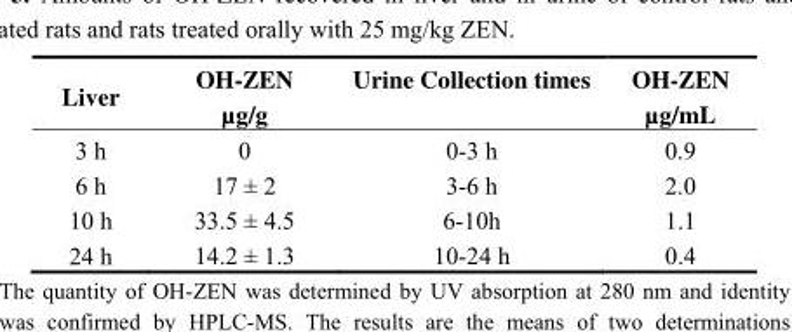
<table><thead><tr><td>Liver</td><td>OH-ZEN µg/g</td><td>Urine Collection times</td><td>OH-ZEN µg/mL</td></tr></thead><tbody><tr><td>3 h</td><td>0</td><td>0-3 h</td><td>0.9</td></tr><tr><td>6 h</td><td>17 ± 2</td><td>3-6 h</td><td>2.0</td></tr><tr><td>10 h</td><td>33.5 ± 4.5</td><td>6-10h</td><td>1.1</td></tr><tr><td>24 h</td><td>14.2 ± 1.3</td><td>10-24 h</td><td>0.4</td></tr></tbody></table>